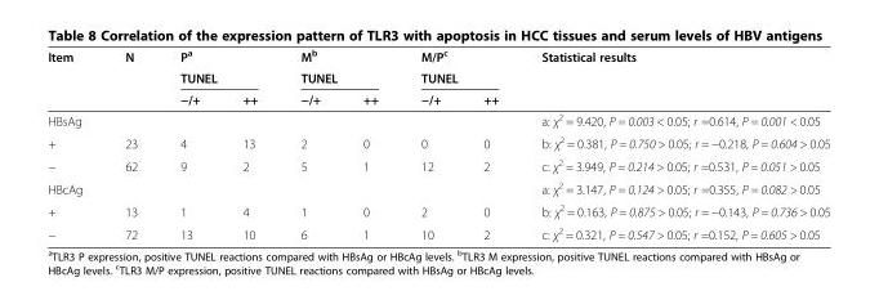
<table><thead><tr><td rowspan="3">Item</td><td rowspan="3">N</td><td rowspan="2" colspan="2">P<sup>a</sup> TUNEL</td><td rowspan="2" colspan="2">M<sup>b</sup> TUNEL</td><td rowspan="2" colspan="2">M/P<sup>c</sup> TUNEL</td><td rowspan="3">Statistical results</td></tr><tr></tr><tr><td>−/+</td><td>++</td><td>−/+</td><td>++</td><td>−/+</td><td>++</td></tr></thead><tbody><tr><td>HBsAg</td><td colspan="7"></td><td>a: χ<sup>2</sup> = 9.420, P = 0.003 &lt; 0.05; r =0.614, P = 0.001 &lt; 0.05</td></tr><tr><td>+</td><td>23</td><td>4</td><td>13</td><td>2</td><td>0</td><td>0</td><td>0</td><td>b: χ<sup>2</sup> = 0.381, P = 0.750 &gt; 0.05; r = −0.218, P = 0.604 &gt; 0.05</td></tr><tr><td>−</td><td>62</td><td>9</td><td>2</td><td>5</td><td>1</td><td>12</td><td>2</td><td>c: χ<sup>2</sup> = 3.949, P = 0.214 &gt; 0.05; r =0.531, P = 0.051 &gt; 0.05</td></tr><tr><td>HBcAg</td><td colspan="7"></td><td>a: χ<sup>2</sup> = 3.147, P = 0.124 &gt; 0.05; r =0.355, P = 0.082 &gt; 0.05</td></tr><tr><td>+</td><td>13</td><td>1</td><td>4</td><td>1</td><td>0</td><td>2</td><td>0</td><td>b: χ<sup>2</sup> = 0.163, P = 0.875 &gt; 0.05; r = −0.143, P = 0.736 &gt; 0.05</td></tr><tr><td>−</td><td>72</td><td>13</td><td>10</td><td>6</td><td>1</td><td>10</td><td>2</td><td>c: χ<sup>2</sup> = 0.321, P = 0.547 &gt; 0.05; r =0.152, P = 0.605 &gt; 0.05</td></tr></tbody></table>